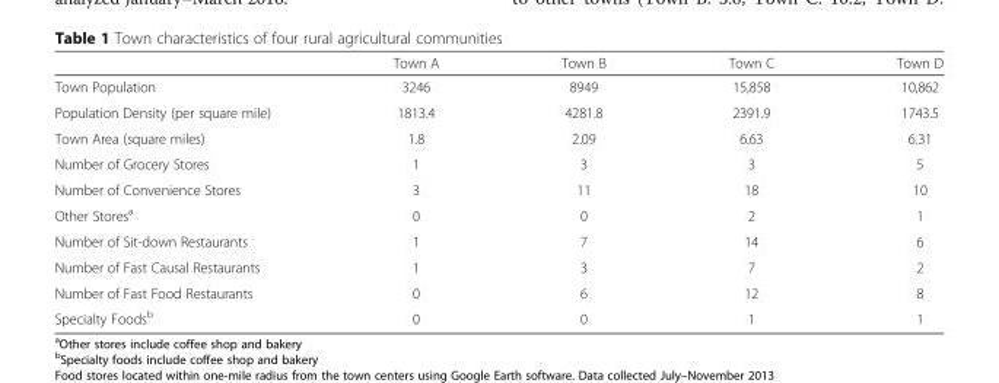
<table><thead><tr><td></td><td>Town A</td><td>Town B</td><td>Town C</td><td>Town D</td></tr></thead><tbody><tr><td>Town Population</td><td>3246</td><td>8949</td><td>15,858</td><td>10,862</td></tr><tr><td>Population Density (per square mile)</td><td>1813.4</td><td>4281.8</td><td>2391.9</td><td>1743.5</td></tr><tr><td>Town Area (square miles)</td><td>1.8</td><td>2.09</td><td>6.63</td><td>6.31</td></tr><tr><td>Number of Grocery Stores</td><td>1</td><td>3</td><td>3</td><td>5</td></tr><tr><td>Number of Convenience Stores</td><td>3</td><td>11</td><td>18</td><td>10</td></tr><tr><td>Other Stores<sup>a</sup></td><td>0</td><td>0</td><td>2</td><td>1</td></tr><tr><td>Number of Sit-down Restaurants</td><td>1</td><td>7</td><td>14</td><td>6</td></tr><tr><td>Number of Fast Causal Restaurants</td><td>1</td><td>3</td><td>7</td><td>2</td></tr><tr><td>Number of Fast Food Restaurants</td><td>0</td><td>6</td><td>12</td><td>8</td></tr><tr><td>Specialty Foods<sup>b</sup></td><td>0</td><td>0</td><td>1</td><td>1</td></tr></tbody></table>